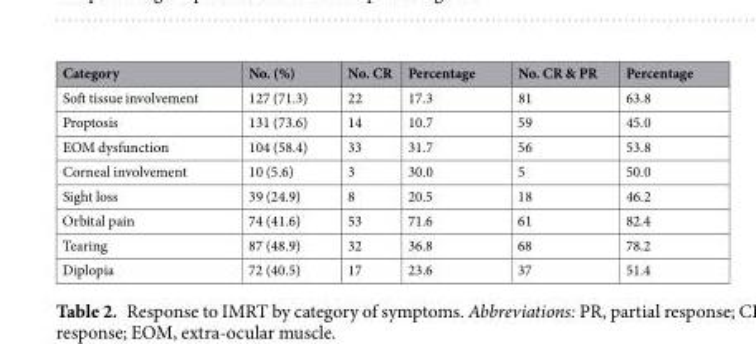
<table><thead><tr><td>Category</td><td>No. (%)</td><td>No. CR</td><td>Percentage</td><td>No. CR &amp; PR</td><td>Percentage</td></tr></thead><tbody><tr><td>Soft tissue involvement</td><td>127 (71.3)</td><td>22</td><td>17.3</td><td>81</td><td>63.8</td></tr><tr><td>Proptosis</td><td>131 (73.6)</td><td>14</td><td>10.7</td><td>59</td><td>45.0</td></tr><tr><td>EOM dysfunction</td><td>104 (58.4)</td><td>33</td><td>31.7</td><td>56</td><td>53.8</td></tr><tr><td>Corneal involvement</td><td>10 (5.6)</td><td>3</td><td>30.0</td><td>5</td><td>50.0</td></tr><tr><td>Sight loss</td><td>39 (24.9)</td><td>8</td><td>20.5</td><td>18</td><td>46.2</td></tr><tr><td>Orbital pain</td><td>74 (41.6)</td><td>53</td><td>71.6</td><td>61</td><td>82.4</td></tr><tr><td>Tearing</td><td>87 (48.9)</td><td>32</td><td>36.8</td><td>68</td><td>78.2</td></tr><tr><td>Diplopia</td><td>72 (40.5)</td><td>17</td><td>23.6</td><td>37</td><td>51.4</td></tr></tbody></table>